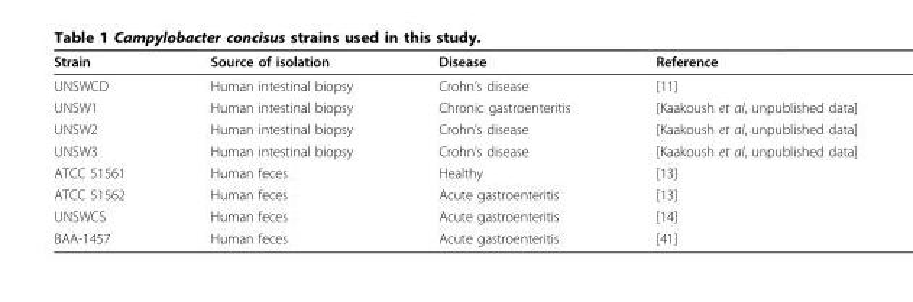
<table><thead><tr><td>Strain</td><td>Source of isolation</td><td>Disease</td><td>Reference</td></tr></thead><tbody><tr><td>UNSWCD</td><td>Human intestinal biopsy</td><td>Crohn’s disease</td><td>[11]</td></tr><tr><td>UNSW1</td><td>Human intestinal biopsy</td><td>Chronic gastroenteritis</td><td>[Kaakoush et al, unpublished data]</td></tr><tr><td>UNSW2</td><td>Human intestinal biopsy</td><td>Crohn’s disease</td><td>[Kaakoush et al, unpublished data]</td></tr><tr><td>UNSW3</td><td>Human intestinal biopsy</td><td>Crohn’s disease</td><td>[Kaakoush et al, unpublished data]</td></tr><tr><td>ATCC 51561</td><td>Human feces</td><td>Healthy</td><td>[13]</td></tr><tr><td>ATCC 51562</td><td>Human feces</td><td>Acute gastroenteritis</td><td>[13]</td></tr><tr><td>UNSWCS</td><td>Human feces</td><td>Acute gastroenteritis</td><td>[14]</td></tr><tr><td>BAA-1457</td><td>Human feces</td><td>Acute gastroenteritis</td><td>[41]</td></tr></tbody></table>